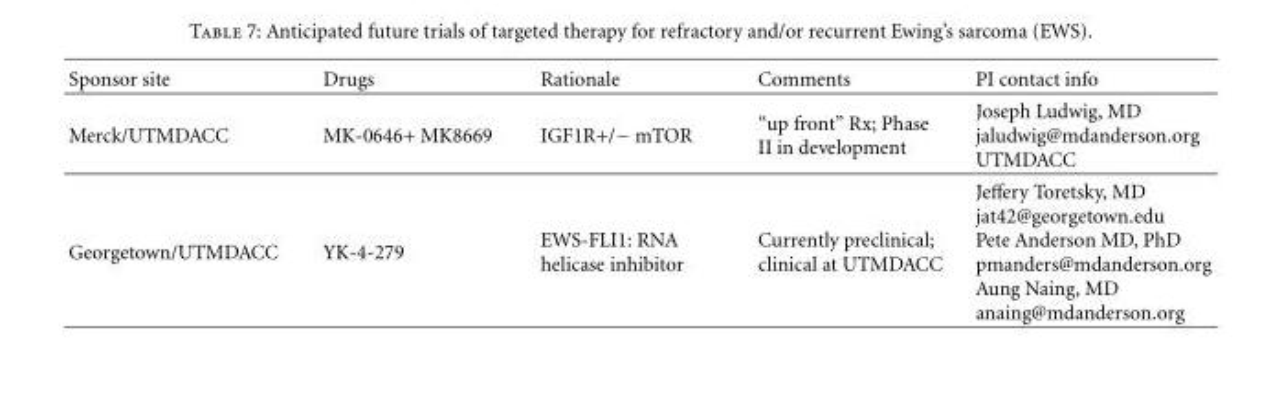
<table><thead><tr><td>Sponsor site</td><td>Drugs</td><td>Rationale</td><td>Comments</td><td>PI contact info</td></tr></thead><tbody><tr><td>Merck/UTMDACC</td><td>MK-0646+ MK8669</td><td>IGF1R+/− mTOR</td><td>“up front” Rx; Phase II in development</td><td>Joseph Ludwig, MD jaludwig@mdanderson.org UTMDACC</td></tr><tr><td>Georgetown/UTMDACC</td><td>YK-4-279</td><td>EWS-FLI1: RNA helicase inhibitor</td><td>Currently preclinical; clinical at UTMDACC</td><td>Jeffery Toretsky, MD jat42@georgetown.edu Pete Anderson MD, PhD pmanders@mdanderson.org Aung Naing, MD anaing@mdanderson.org</td></tr></tbody></table>